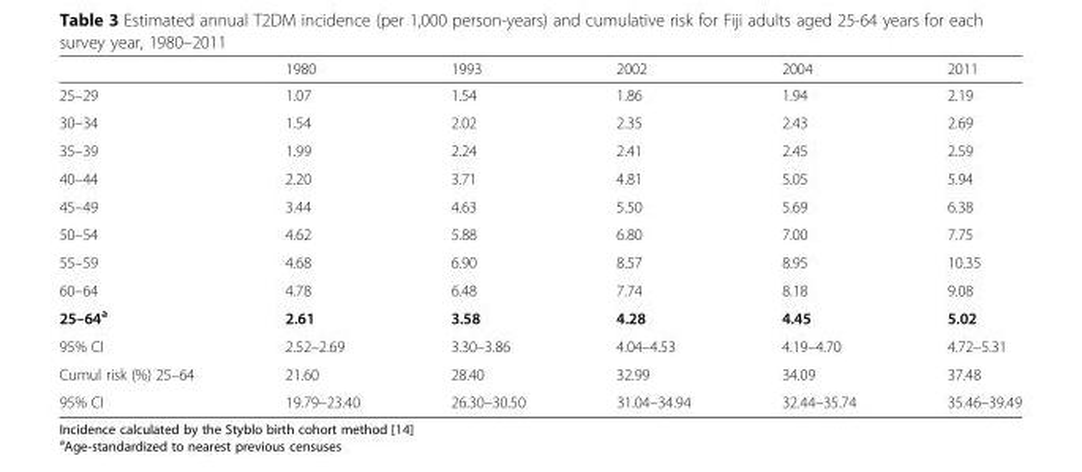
<table><thead><tr><td></td><td>1980</td><td>1993</td><td>2002</td><td>2004</td><td>2011</td></tr></thead><tbody><tr><td>25–29</td><td>1.07</td><td>1.54</td><td>1.86</td><td>1.94</td><td>2.19</td></tr><tr><td>30–34</td><td>1.54</td><td>2.02</td><td>2.35</td><td>2.43</td><td>2.69</td></tr><tr><td>35–39</td><td>1.99</td><td>2.24</td><td>2.41</td><td>2.45</td><td>2.59</td></tr><tr><td>40–44</td><td>2.20</td><td>3.71</td><td>4.81</td><td>5.05</td><td>5.94</td></tr><tr><td>45–49</td><td>3.44</td><td>4.63</td><td>5.50</td><td>5.69</td><td>6.38</td></tr><tr><td>50–54</td><td>4.62</td><td>5.88</td><td>6.80</td><td>7.00</td><td>7.75</td></tr><tr><td>55–59</td><td>4.68</td><td>6.90</td><td>8.57</td><td>8.95</td><td>10.35</td></tr><tr><td>60–64</td><td>4.78</td><td>6.48</td><td>7.74</td><td>8.18</td><td>9.08</td></tr><tr><td>25–64<sup>a</sup></td><td>2.61</td><td>3.58</td><td>4.28</td><td>4.45</td><td>5.02</td></tr><tr><td>95% CI</td><td>2.52–2.69</td><td>3.30–3.86</td><td>4.04–4.53</td><td>4.19–4.70</td><td>4.72–5.31</td></tr><tr><td>Cumul risk (%) 25–64</td><td>21.60</td><td>28.40</td><td>32.99</td><td>34.09</td><td>37.48</td></tr><tr><td>95% CI</td><td>19.79–23.40</td><td>26.30–30.50</td><td>31.04–34.94</td><td>32.44–35.74</td><td>35.46–39.49</td></tr></tbody></table>